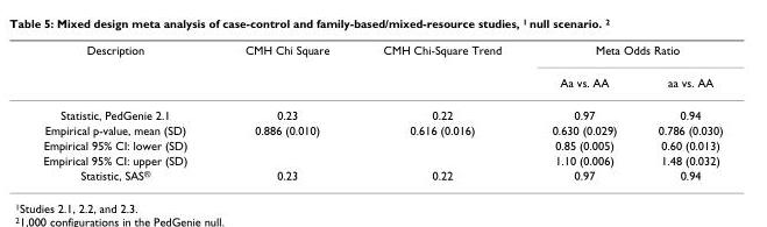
<table><thead><tr><td rowspan="2">Description</td><td rowspan="2">CMH Chi Square</td><td rowspan="2">CMH Chi-Square Trend</td><td colspan="2">Meta Odds Ratio</td></tr><tr><td>Aa vs. AA</td><td>aa vs. AA</td></tr></thead><tbody><tr><td>Statistic, PedGenie 2.1</td><td>0.23</td><td>0.22</td><td>0.97</td><td>0.94</td></tr><tr><td>Empirical p-value, mean (SD)</td><td>0.886 (0.010)</td><td>0.616 (0.016)</td><td>0.630 (0.029)</td><td>0.786 (0.030)</td></tr><tr><td>Empirical 95% CI: lower (SD)</td><td></td><td></td><td>0.85 (0.005)</td><td>0.60 (0.013)</td></tr><tr><td>Empirical 95% CI: upper (SD)</td><td></td><td></td><td>1.10 (0.006)</td><td>1.48 (0.032)</td></tr><tr><td>Statistic, SAS<sup>®</sup></td><td>0.23</td><td>0.22</td><td>0.97</td><td>0.94</td></tr></tbody></table>